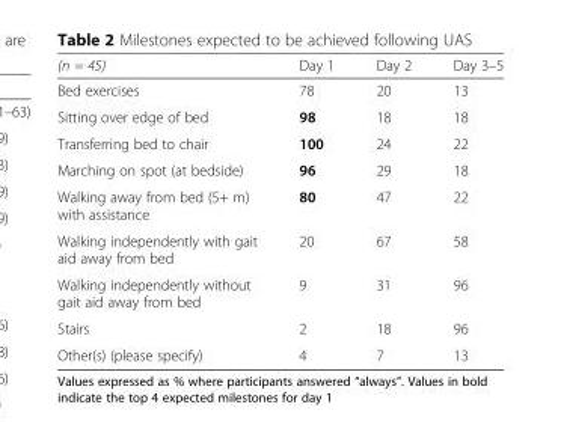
<table><thead><tr><td>(n = 45)</td><td>Day 1</td><td>Day 2</td><td>Day 3–5</td></tr></thead><tbody><tr><td>Bed exercises</td><td>78</td><td>20</td><td>13</td></tr><tr><td>Sitting over edge of bed</td><td>98</td><td>18</td><td>18</td></tr><tr><td>Transferring bed to chair</td><td>100</td><td>24</td><td>22</td></tr><tr><td>Marching on spot (at bedside)</td><td>96</td><td>29</td><td>18</td></tr><tr><td>Walking away from bed (5+ m) with assistance</td><td>80</td><td>47</td><td>22</td></tr><tr><td>Walking independently with gait aid away from bed</td><td>20</td><td>67</td><td>58</td></tr><tr><td>Walking independently without gait aid away from bed</td><td>9</td><td>31</td><td>96</td></tr><tr><td>Stairs</td><td>2</td><td>18</td><td>96</td></tr><tr><td>Other(s) (please specify)</td><td>4</td><td>7</td><td>13</td></tr></tbody></table>